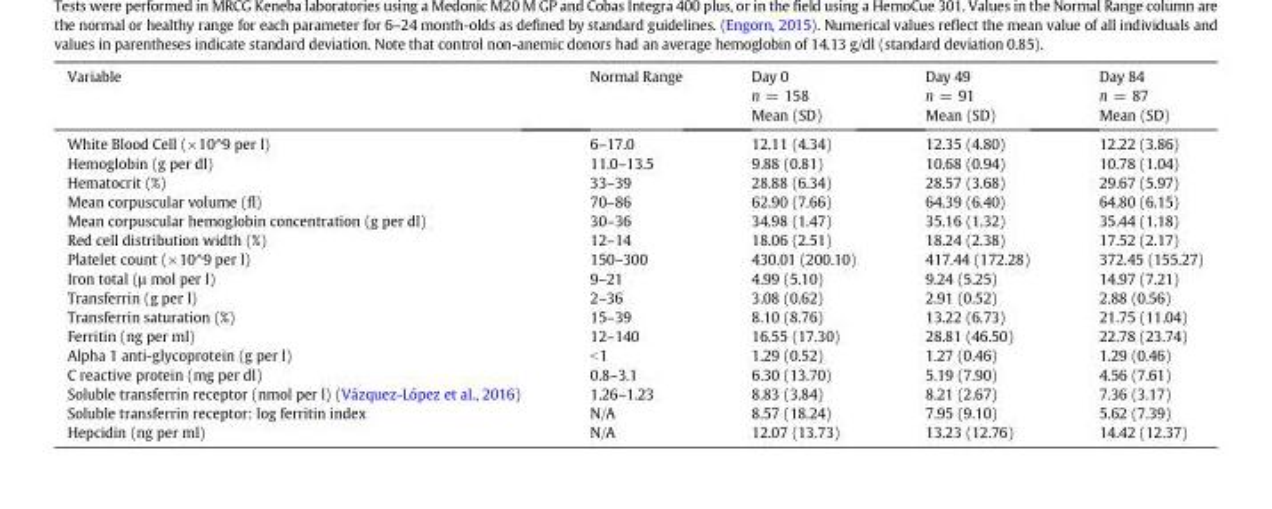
<table><thead><tr><td>Variable</td><td>Normal Range</td><td>Day 0 n = 158 Mean (SD)</td><td>Day 49 n = 91 Mean (SD)</td><td>Day 84 n = 87 Mean (SD)</td></tr></thead><tbody><tr><td>White Blood Cell (×10^9 per l)</td><td>6–17.0</td><td>12.11 (4.34)</td><td>12.35 (4.80)</td><td>12.22 (3.86)</td></tr><tr><td>Hemoglobin (g per dl)</td><td>11.0–13.5</td><td>9.88 (0.81)</td><td>10.68 (0.94)</td><td>10.78 (1.04)</td></tr><tr><td>Hematocrit (%)</td><td>33–39</td><td>28.88 (6.34)</td><td>28.57 (3.68)</td><td>29.67 (5.97)</td></tr><tr><td>Mean corpuscular volume (fl)</td><td>70–86</td><td>62.90 (7.66)</td><td>64.39 (6.40)</td><td>64.80 (6.15)</td></tr><tr><td>Mean corpuscular hemoglobin concentration (g per dl)</td><td>30–36</td><td>34.98 (1.47)</td><td>35.16 (1.32)</td><td>35.44 (1.18)</td></tr><tr><td>Red cell distribution width (%)</td><td>12–14</td><td>18.06 (2.51)</td><td>18.24 (2.38)</td><td>17.52 (2.17)</td></tr><tr><td>Platelet count (×10^9 per l)</td><td>150–300</td><td>430.01 (200.10)</td><td>417.44 (172.28)</td><td>372.45 (155.27)</td></tr><tr><td>Iron total (μ mol per l)</td><td>9–21</td><td>4.99 (5.10)</td><td>9.24 (5.25)</td><td>14.97 (7.21)</td></tr><tr><td>Transferrin (g per l)</td><td>2–36</td><td>3.08 (0.62)</td><td>2.91 (0.52)</td><td>2.88 (0.56)</td></tr><tr><td>Transferrin saturation (%)</td><td>15–39</td><td>8.10 (8.76)</td><td>13.22 (6.73)</td><td>21.75 (11.04)</td></tr><tr><td>Ferritin (ng per ml)</td><td>12–140</td><td>16.55 (17.30)</td><td>28.81 (46.50)</td><td>22.78 (23.74)</td></tr><tr><td>Alpha 1 anti-glycoprotein (g per l)</td><td>&lt;1</td><td>1.29 (0.52)</td><td>1.27 (0.46)</td><td>1.29 (0.46)</td></tr><tr><td>C reactive protein (mg per dl)</td><td>0.8–3.1</td><td>6.30 (13.70)</td><td>5.19 (7.90)</td><td>4.56 (7.61)</td></tr><tr><td>Soluble transferrin receptor (nmol per l) (Vázquez-López et al., 2016)</td><td>1.26–1.23</td><td>8.83 (3.84)</td><td>8.21 (2.67)</td><td>7.36 (3.17)</td></tr><tr><td>Soluble transferrin receptor: log ferritin index</td><td>N/A</td><td>8.57 (18.24)</td><td>7.95 (9.10)</td><td>5.62 (7.39)</td></tr><tr><td>Hepcidin (ng per ml)</td><td>N/A</td><td>12.07 (13.73)</td><td>13.23 (12.76)</td><td>14.42 (12.37)</td></tr></tbody></table>